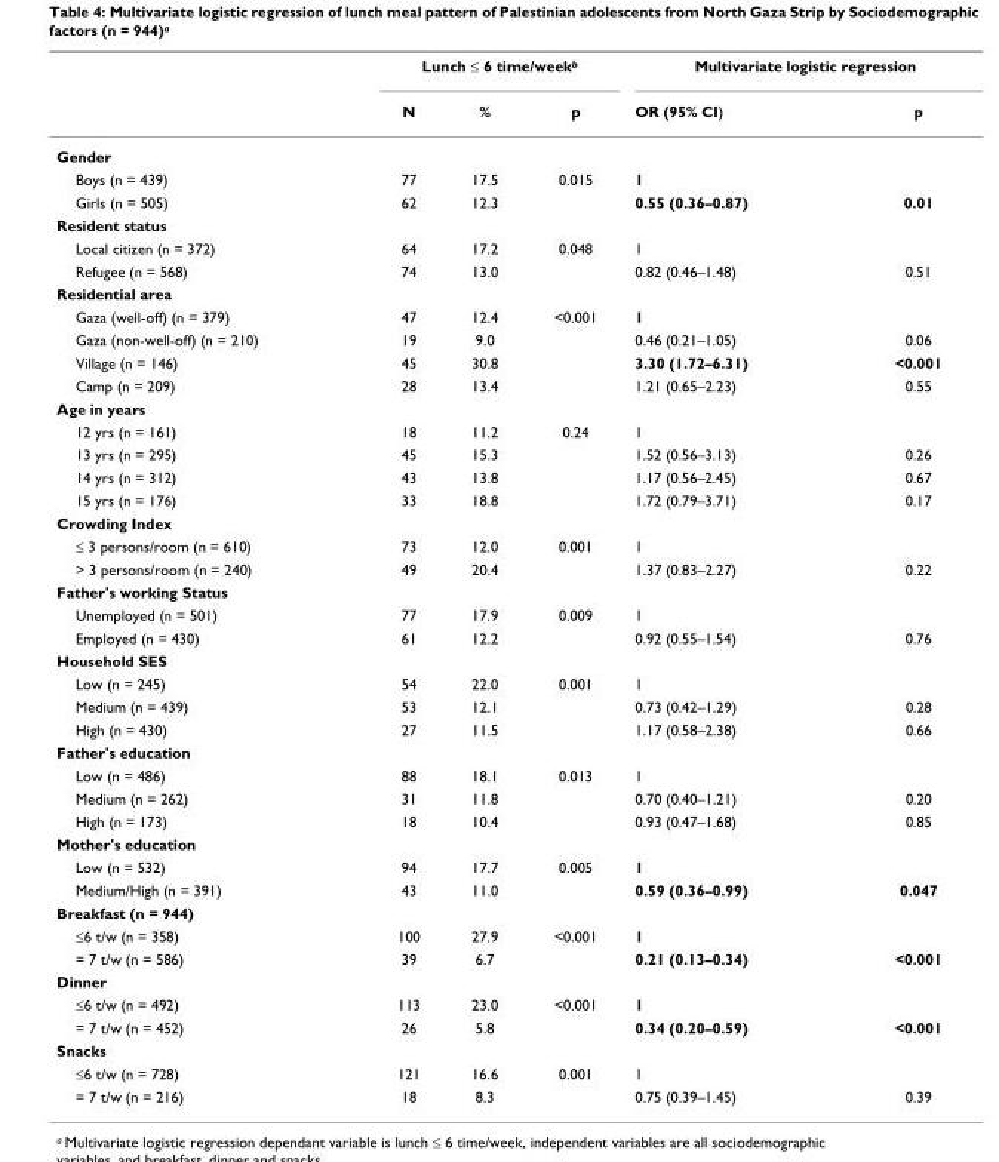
<table><thead><tr><td rowspan="2"></td><td colspan="3">Lunch ≤ 6 time/week<sup>b</sup></td><td colspan="2">Multivariate logistic regression</td></tr><tr><td>N</td><td>%</td><td>p</td><td>OR (95% CI)</td><td>p</td></tr></thead><tbody><tr><td colspan="6">Gender</td></tr><tr><td>Boys (n = 439)</td><td>77</td><td>17.5</td><td>0.015</td><td>1</td><td></td></tr><tr><td>Girls (n = 505)</td><td>62</td><td>12.3</td><td></td><td>0.55 (0.36–0.87)</td><td>0.01</td></tr><tr><td colspan="6">Resident status</td></tr><tr><td>Local citizen (n = 372)</td><td>64</td><td>17.2</td><td>0.048</td><td>1</td><td></td></tr><tr><td>Refugee (n = 568)</td><td>74</td><td>13.0</td><td></td><td>0.82 (0.46–1.48)</td><td>0.51</td></tr><tr><td colspan="6">Residential area</td></tr><tr><td>Gaza (well-off) (n = 379)</td><td>47</td><td>12.4</td><td>&lt;0.001</td><td>1</td><td></td></tr><tr><td>Gaza (non-well-off) (n = 210)</td><td>19</td><td>9.0</td><td></td><td>0.46 (0.21–1.05)</td><td>0.06</td></tr><tr><td>Village (n = 146)</td><td>45</td><td>30.8</td><td></td><td>3.30 (1.72–6.31)</td><td>&lt;0.001</td></tr><tr><td>Camp (n = 209)</td><td>28</td><td>13.4</td><td></td><td>1.21 (0.65–2.23)</td><td>0.55</td></tr><tr><td colspan="6">Age in years</td></tr><tr><td>12 yrs (n = 161)</td><td>18</td><td>11.2</td><td>0.24</td><td>1</td><td></td></tr><tr><td>13 yrs (n = 295)</td><td>45</td><td>15.3</td><td></td><td>1.52 (0.56–3.13)</td><td>0.26</td></tr><tr><td>14 yrs (n = 312)</td><td>43</td><td>13.8</td><td></td><td>1.17 (0.56–2.45)</td><td>0.67</td></tr><tr><td>15 yrs (n = 176)</td><td>33</td><td>18.8</td><td></td><td>1.72 (0.79–3.71)</td><td>0.17</td></tr><tr><td colspan="6">Crowding Index</td></tr><tr><td>≤ 3 persons/room (n = 610)</td><td>73</td><td>12.0</td><td>0.001</td><td>1</td><td></td></tr><tr><td>&gt; 3 persons/room (n = 240)</td><td>49</td><td>20.4</td><td></td><td>1.37 (0.83–2.27)</td><td>0.22</td></tr><tr><td colspan="6">Father&#x27;s working Status</td></tr><tr><td>Unemployed (n = 501)</td><td>77</td><td>17.9</td><td>0.009</td><td>1</td><td></td></tr><tr><td>Employed (n = 430)</td><td>61</td><td>12.2</td><td></td><td>0.92 (0.55–1.54)</td><td>0.76</td></tr><tr><td colspan="6">Household SES</td></tr><tr><td>Low (n = 245)</td><td>54</td><td>22.0</td><td>0.001</td><td>1</td><td></td></tr><tr><td>Medium (n = 439)</td><td>53</td><td>12.1</td><td></td><td>0.73 (0.42–1.29)</td><td>0.28</td></tr><tr><td>High (n = 430)</td><td>27</td><td>11.5</td><td></td><td>1.17 (0.58–2.38)</td><td>0.66</td></tr><tr><td colspan="6">Father&#x27;s education</td></tr><tr><td>Low (n = 486)</td><td>88</td><td>18.1</td><td>0.013</td><td>1</td><td></td></tr><tr><td>Medium (n = 262)</td><td>31</td><td>11.8</td><td></td><td>0.70 (0.40–1.21)</td><td>0.20</td></tr><tr><td>High (n = 173)</td><td>18</td><td>10.4</td><td></td><td>0.93 (0.47–1.68)</td><td>0.85</td></tr><tr><td colspan="6">Mother&#x27;s education</td></tr><tr><td>Low (n = 532)</td><td>94</td><td>17.7</td><td>0.005</td><td>1</td><td></td></tr><tr><td>Medium/High (n = 391)</td><td>43</td><td>11.0</td><td></td><td>0.59 (0.36–0.99)</td><td>0.047</td></tr><tr><td colspan="6">Breakfast (n = 944)</td></tr><tr><td>≤6 t/w (n = 358)</td><td>100</td><td>27.9</td><td>&lt;0.001</td><td>1</td><td></td></tr><tr><td>= 7 t/w (n = 586)</td><td>39</td><td>6.7</td><td></td><td>0.21 (0.13–0.34)</td><td>&lt;0.001</td></tr><tr><td colspan="6">Dinner</td></tr><tr><td>≤6 t/w (n = 492)</td><td>113</td><td>23.0</td><td>&lt;0.001</td><td>1</td><td></td></tr><tr><td>= 7 t/w (n = 452)</td><td>26</td><td>5.8</td><td></td><td>0.34 (0.20–0.59)</td><td>&lt;0.001</td></tr><tr><td colspan="6">Snacks</td></tr><tr><td>≤6 t/w (n = 728)</td><td>121</td><td>16.6</td><td>0.001</td><td>1</td><td></td></tr><tr><td>= 7 t/w (n = 216)</td><td>18</td><td>8.3</td><td></td><td>0.75 (0.39–1.45)</td><td>0.39</td></tr></tbody></table>